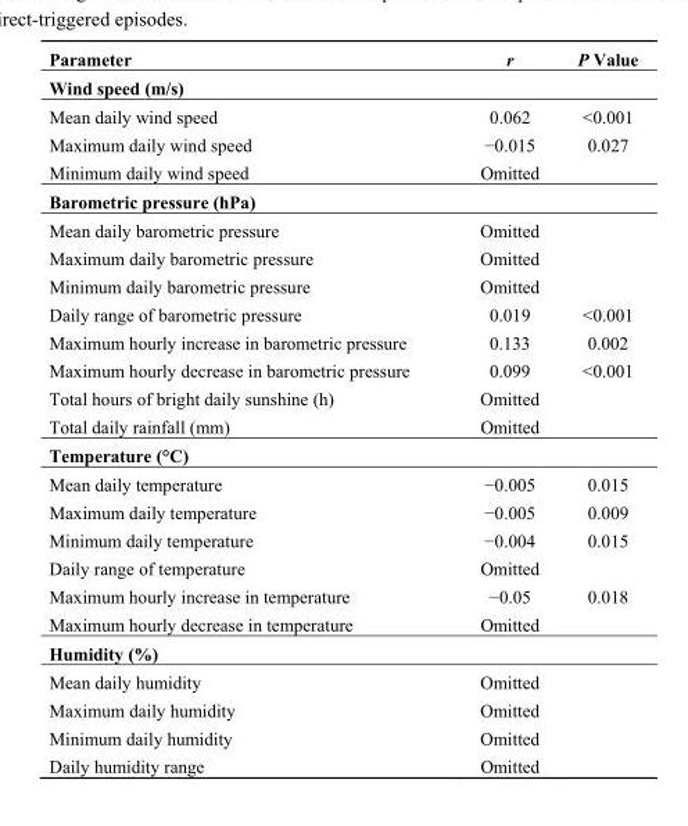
<table><thead><tr><td>Parameter</td><td>r</td><td>P Value</td></tr></thead><tbody><tr><td colspan="3">Wind speed (m/s)</td></tr><tr><td>Mean daily wind speed</td><td>0.062</td><td>&lt;0.001</td></tr><tr><td>Maximum daily wind speed</td><td>−0.015</td><td>0.027</td></tr><tr><td>Minimum daily wind speed</td><td>Omitted</td><td></td></tr><tr><td colspan="3">Barometric pressure (hPa)</td></tr><tr><td>Mean daily barometric pressure</td><td>Omitted</td><td></td></tr><tr><td>Maximum daily barometric pressure</td><td>Omitted</td><td></td></tr><tr><td>Minimum daily barometric pressure</td><td>Omitted</td><td></td></tr><tr><td>Daily range of barometric pressure</td><td>0.019</td><td>&lt;0.001</td></tr><tr><td>Maximum hourly increase in barometric pressure</td><td>0.133</td><td>0.002</td></tr><tr><td>Maximum hourly decrease in barometric pressure</td><td>0.099</td><td>&lt;0.001</td></tr><tr><td>Total hours of bright daily sunshine (h)</td><td>Omitted</td><td></td></tr><tr><td>Total daily rainfall (mm)</td><td>Omitted</td><td></td></tr><tr><td colspan="3">Temperature (°C)</td></tr><tr><td>Mean daily temperature</td><td>−0.005</td><td>0.015</td></tr><tr><td>Maximum daily temperature</td><td>−0.005</td><td>0.009</td></tr><tr><td>Minimum daily temperature</td><td>−0.004</td><td>0.015</td></tr><tr><td>Daily range of temperature</td><td>Omitted</td><td></td></tr><tr><td>Maximum hourly increase in temperature</td><td>−0.05</td><td>0.018</td></tr><tr><td>Maximum hourly decrease in temperature</td><td>Omitted</td><td></td></tr><tr><td colspan="3">Humidity (%)</td></tr><tr><td>Mean daily humidity</td><td>Omitted</td><td></td></tr><tr><td>Maximum daily humidity</td><td>Omitted</td><td></td></tr><tr><td>Minimum daily humidity</td><td>Omitted</td><td></td></tr><tr><td>Daily humidity range</td><td>Omitted</td><td></td></tr></tbody></table>